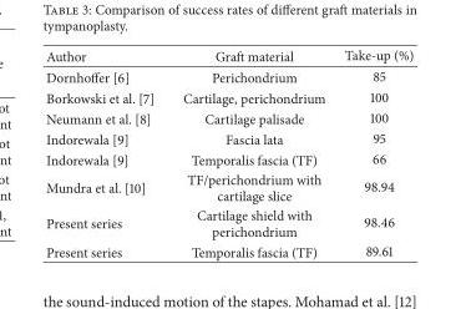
<table><thead><tr><td>Author</td><td>Graft material</td><td>Take-up (%)</td></tr></thead><tbody><tr><td>Dornhoffer [6]</td><td>Perichondrium</td><td>85</td></tr><tr><td>Borkowski et al. [7]</td><td>Cartilage, perichondrium</td><td>100</td></tr><tr><td>Neumann et al. [8]</td><td>Cartilage palisade</td><td>100</td></tr><tr><td>Indorewala [9]</td><td>Fascia lata</td><td>95</td></tr><tr><td>Indorewala [9]</td><td>Temporalis fascia (TF)</td><td>66</td></tr><tr><td>Mundra et al. [10]</td><td>TF/perichondrium with cartilage slice</td><td>98.94</td></tr><tr><td>Present series</td><td>Cartilage shield with perichondrium</td><td>98.46</td></tr><tr><td>Present series</td><td>Temporalis fascia (TF)</td><td>89.61</td></tr></tbody></table>